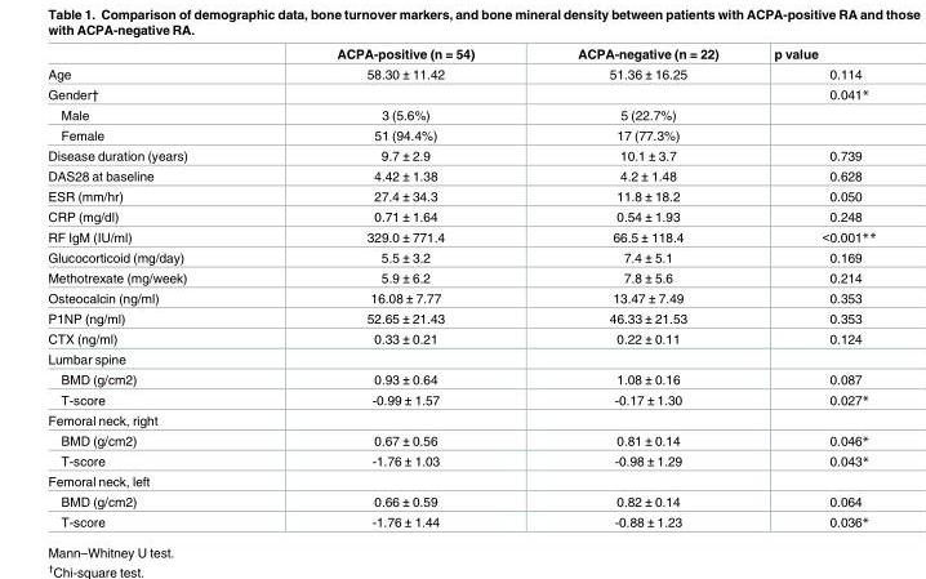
<table><thead><tr><td></td><td>ACPA-positive (n = 54)</td><td>ACPA-negative (n = 22)</td><td>p value</td></tr></thead><tbody><tr><td>Age</td><td>58.30 ± 11.42</td><td>51.36 ± 16.25</td><td>0.114</td></tr><tr><td>Gender†</td><td></td><td></td><td>0.041*</td></tr><tr><td>Male</td><td>3 (5.6%)</td><td>5 (22.7%)</td><td></td></tr><tr><td>Female</td><td>51 (94.4%)</td><td>17 (77.3%)</td><td></td></tr><tr><td>Disease duration (years)</td><td>9.7 ± 2.9</td><td>10.1 ± 3.7</td><td>0.739</td></tr><tr><td>DAS28 at baseline</td><td>4.42 ± 1.38</td><td>4.2 ± 1.48</td><td>0.628</td></tr><tr><td>ESR (mm/hr)</td><td>27.4 ± 34.3</td><td>11.8 ± 18.2</td><td>0.050</td></tr><tr><td>CRP (mg/dl)</td><td>0.71 ± 1.64</td><td>0.54 ± 1.93</td><td>0.248</td></tr><tr><td>RF IgM (IU/ml)</td><td>329.0 ± 771.4</td><td>66.5 ± 118.4</td><td>&lt;0.001**</td></tr><tr><td>Glucocorticoid (mg/day)</td><td>5.5 ± 3.2</td><td>7.4 ± 5.1</td><td>0.169</td></tr><tr><td>Methotrexate (mg/week)</td><td>5.9 ± 6.2</td><td>7.8 ± 5.6</td><td>0.214</td></tr><tr><td>Osteocalcin (ng/ml)</td><td>16.08 ± 7.77</td><td>13.47 ± 7.49</td><td>0.353</td></tr><tr><td>P1NP (ng/ml)</td><td>52.65 ± 21.43</td><td>46.33 ± 21.53</td><td>0.353</td></tr><tr><td>CTX (ng/ml)</td><td>0.33 ± 0.21</td><td>0.22 ± 0.11</td><td>0.124</td></tr><tr><td colspan="4">Lumbar spine</td></tr><tr><td>BMD (g/cm2)</td><td>0.93 ± 0.64</td><td>1.08 ± 0.16</td><td>0.087</td></tr><tr><td>T-score</td><td>-0.99 ± 1.57</td><td>-0.17 ± 1.30</td><td>0.027*</td></tr><tr><td colspan="4">Femoral neck, right</td></tr><tr><td>BMD (g/cm2)</td><td>0.67 ± 0.56</td><td>0.81 ± 0.14</td><td>0.046*</td></tr><tr><td>T-score</td><td>-1.76 ± 1.03</td><td>-0.98 ± 1.29</td><td>0.043*</td></tr><tr><td colspan="4">Femoral neck, left</td></tr><tr><td>BMD (g/cm2)</td><td>0.66 ± 0.59</td><td>0.82 ± 0.14</td><td>0.064</td></tr><tr><td>T-score</td><td>-1.76 ± 1.44</td><td>-0.88 ± 1.23</td><td>0.036*</td></tr></tbody></table>